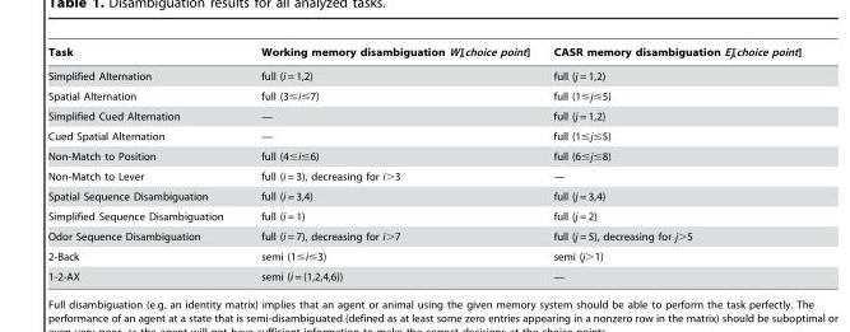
<table><thead><tr><td>Task</td><td>Working memory disambiguation W<sub>i</sub>[choice point]</td><td>CASR memory disambiguation E<sub>j</sub>[choice point]</td></tr></thead><tbody><tr><td>Simplified Alternation</td><td>full (i = 1,2)</td><td>full (j = 1,2)</td></tr><tr><td>Spatial Alternation</td><td>full (3≤i≤7)</td><td>full (1≤j≤5)</td></tr><tr><td>Simplified Cued Alternation</td><td>—</td><td>full (j = 1,2)</td></tr><tr><td>Cued Spatial Alternation</td><td>—</td><td>full (1≤j≤5)</td></tr><tr><td>Non-Match to Position</td><td>full (4≤i≤6)</td><td>full (6≤j≤8)</td></tr><tr><td>Non-Match to Lever</td><td>full (i = 3), decreasing for i&gt;3</td><td>—</td></tr><tr><td>Spatial Sequence Disambiguation</td><td>full (i = 3,4)</td><td>full (j = 3,4)</td></tr><tr><td>Simplified Sequence Disambiguation</td><td>full (i = 1)</td><td>full (j = 2)</td></tr><tr><td>Odor Sequence Disambiguation</td><td>full (i = 7), decreasing for i&gt;7</td><td>full (j = 5), decreasing for j&gt;5</td></tr><tr><td>2-Back</td><td>semi (1≤i≤3)</td><td>semi (j&gt;1)</td></tr><tr><td>1-2-AX</td><td>semi (i = {1,2,4,6})</td><td>—</td></tr></tbody></table>